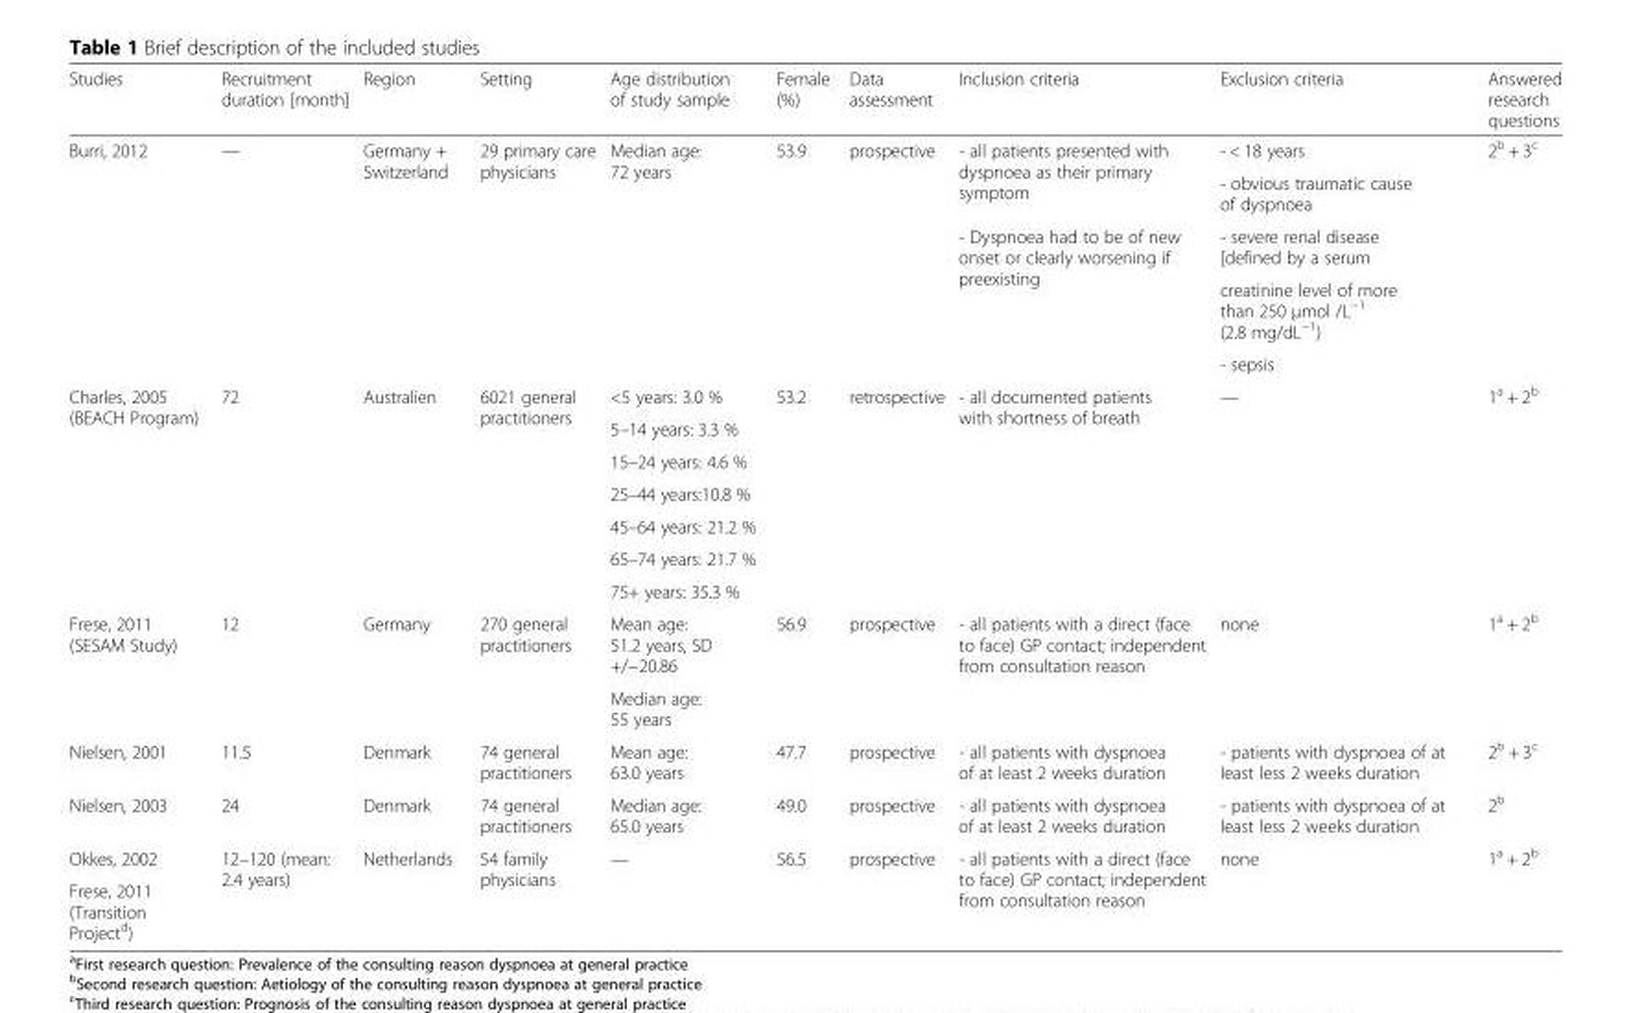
<table><thead><tr><td>Studies</td><td>Recruitment duration [month]</td><td>Region</td><td>Setting</td><td>Age distribution of study sample</td><td>Female (%)</td><td>Data assessment</td><td>Inclusion criteria</td><td>Exclusion criteria</td><td>Answered research questions</td></tr></thead><tbody><tr><td rowspan="5">Burri, 2012</td><td rowspan="5">—</td><td rowspan="5">Germany + Switzerland</td><td rowspan="5">29 primary care physicians</td><td rowspan="5">Median age: 72 years</td><td rowspan="5">53.9</td><td rowspan="5">prospective</td><td rowspan="2">- all patients presented with dyspnoea as their primary symptom</td><td>- &lt; 18 years</td><td rowspan="5">2<sup>b</sup> + 3<sup>c</sup></td></tr><tr><td>- obvious traumatic cause of dyspnoea</td></tr><tr><td rowspan="3">- Dyspnoea had to be of new onset or clearly worsening if preexisting</td><td>- severe renal disease [defined by a serum</td></tr><tr><td>creatinine level of more than 250 μmol /L<sup>−1</sup> (2.8 mg/dL<sup>−1</sup>)</td></tr><tr><td>- sepsis</td></tr><tr><td rowspan="7">Charles, 2005 (BEACH Program)</td><td rowspan="7">72</td><td rowspan="7">Australien</td><td rowspan="7">6021 general practitioners</td><td>&lt;5 years: 3.0 %</td><td rowspan="7">53.2</td><td rowspan="7">retrospective</td><td rowspan="7">- all documented patients with shortness of breath</td><td rowspan="7">—</td><td rowspan="7">1<sup>a</sup> + 2<sup>b</sup></td></tr><tr><td>5–14 years: 3.3 %</td></tr><tr><td>15–24 years: 4.6 %</td></tr><tr><td>25–44 years:10.8 %</td></tr><tr><td>45–64 years: 21.2 %</td></tr><tr><td>65–74 years: 21.7 %</td></tr><tr><td>75+ years: 35.3 %</td></tr><tr><td rowspan="2">Frese, 2011 (SESAM Study)</td><td rowspan="2">12</td><td rowspan="2">Germany</td><td rowspan="2">270 general practitioners</td><td>Mean age: 51.2 years, SD +/−20.86</td><td rowspan="2">56.9</td><td rowspan="2">prospective</td><td rowspan="2">- all patients with a direct (face to face) GP contact; independent from consultation reason</td><td rowspan="2">none</td><td rowspan="2">1<sup>a</sup> + 2<sup>b</sup></td></tr><tr><td>Median age: 55 years</td></tr><tr><td>Nielsen, 2001</td><td>11.5</td><td>Denmark</td><td>74 general practitioners</td><td>Mean age: 63.0 years</td><td>47.7</td><td>prospective</td><td>- all patients with dyspnoea of at least 2 weeks duration</td><td>- patients with dyspnoea of at least less 2 weeks duration</td><td>2<sup>b</sup> + 3<sup>c</sup></td></tr><tr><td>Nielsen, 2003</td><td>24</td><td>Denmark</td><td>74 general practitioners</td><td>Median age: 65.0 years</td><td>49.0</td><td>prospective</td><td>- all patients with dyspnoea of at least 2 weeks duration</td><td>- patients with dyspnoea of at least less 2 weeks duration</td><td>2<sup>b</sup></td></tr><tr><td>Okkes, 2002</td><td rowspan="2">12–120 (mean: 2.4 years)</td><td rowspan="2">Netherlands</td><td rowspan="2">54 family physicians</td><td rowspan="2">—</td><td rowspan="2">56.5</td><td rowspan="2">prospective</td><td rowspan="2">- all patients with a direct (face to face) GP contact; independent from consultation reason</td><td rowspan="2">none</td><td rowspan="2">1<sup>a</sup> + 2<sup>b</sup></td></tr><tr><td>Frese, 2011 (Transition Project<sup>d</sup>)</td></tr></tbody></table>